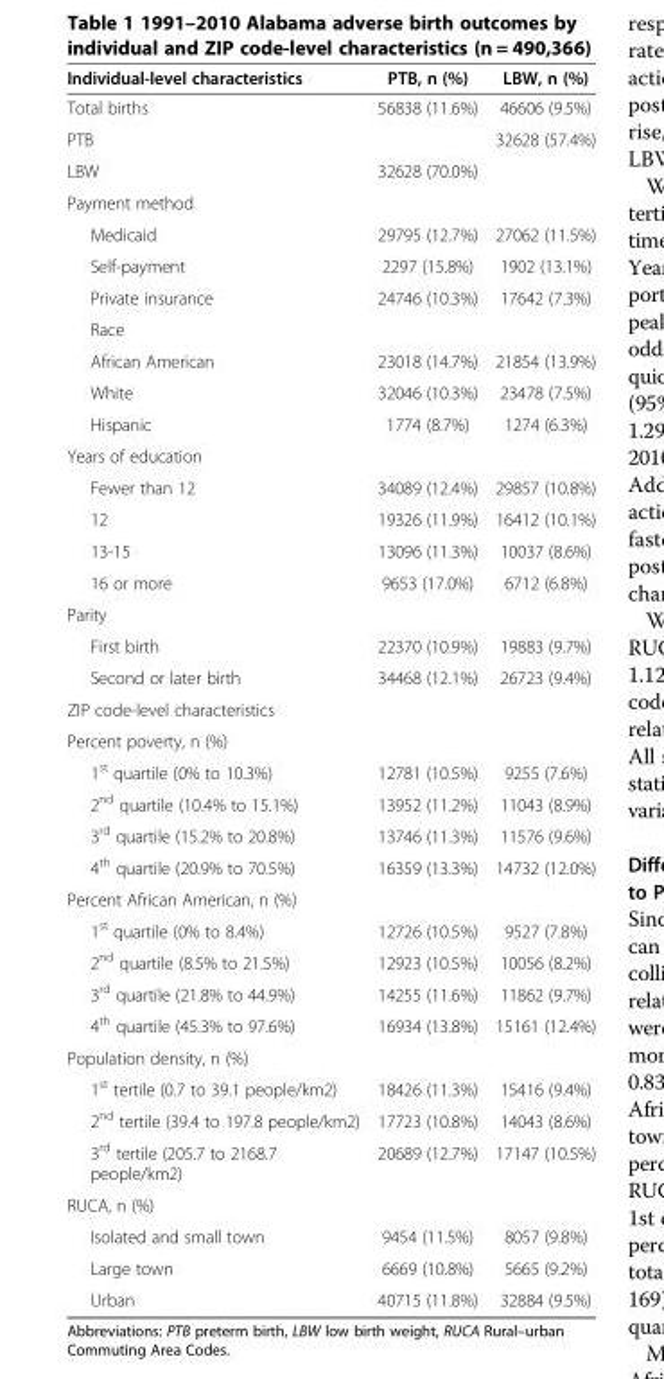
<table><thead><tr><td>Individual-level characteristics</td><td>PTB, n (%)</td><td>LBW, n (%)</td></tr></thead><tbody><tr><td>Total births</td><td>56838 (11.6%)</td><td>46606 (9.5%)</td></tr><tr><td>PTB</td><td></td><td>32628 (57.4%)</td></tr><tr><td>LBW</td><td>32628 (70.0%)</td><td></td></tr><tr><td colspan="3">Payment method</td></tr><tr><td>Medicaid</td><td>29795 (12.7%)</td><td>27062 (11.5%)</td></tr><tr><td>Self-payment</td><td>2297 (15.8%)</td><td>1902 (13.1%)</td></tr><tr><td>Private insurance</td><td>24746 (10.3%)</td><td>17642 (7.3%)</td></tr><tr><td colspan="3">Race</td></tr><tr><td>African American</td><td>23018 (14.7%)</td><td>21854 (13.9%)</td></tr><tr><td>White</td><td>32046 (10.3%)</td><td>23478 (7.5%)</td></tr><tr><td>Hispanic</td><td>1774 (8.7%)</td><td>1274 (6.3%)</td></tr><tr><td colspan="3">Years of education</td></tr><tr><td>Fewer than 12</td><td>34089 (12.4%)</td><td>29857 (10.8%)</td></tr><tr><td>12</td><td>19326 (11.9%)</td><td>16412 (10.1%)</td></tr><tr><td>13-15</td><td>13096 (11.3%)</td><td>10037 (8.6%)</td></tr><tr><td>16 or more</td><td>9653 (17.0%)</td><td>6712 (6.8%)</td></tr><tr><td colspan="3">Parity</td></tr><tr><td>First birth</td><td>22370 (10.9%)</td><td>19883 (9.7%)</td></tr><tr><td>Second or later birth</td><td>34468 (12.1%)</td><td>26723 (9.4%)</td></tr><tr><td colspan="3">ZIP code-level characteristics</td></tr><tr><td colspan="3">Percent poverty, n (%)</td></tr><tr><td>1<sup>st</sup> quartile (0% to 10.3%)</td><td>12781 (10.5%)</td><td>9255 (7.6%)</td></tr><tr><td>2<sup>nd</sup> quartile (10.4% to 15.1%)</td><td>13952 (11.2%)</td><td>11043 (8.9%)</td></tr><tr><td>3<sup>rd</sup> quartile (15.2% to 20.8%)</td><td>13746 (11.3%)</td><td>11576 (9.6%)</td></tr><tr><td>4<sup>th</sup> quartile (20.9% to 70.5%)</td><td>16359 (13.3%)</td><td>14732 (12.0%)</td></tr><tr><td colspan="3">Percent African American, n (%)</td></tr><tr><td>1<sup>st</sup> quartile (0% to 8.4%)</td><td>12726 (10.5%)</td><td>9527 (7.8%)</td></tr><tr><td>2<sup>nd</sup> quartile (8.5% to 21.5%)</td><td>12923 (10.5%)</td><td>10056 (8.2%)</td></tr><tr><td>3<sup>rd</sup> quartile (21.8% to 44.9%)</td><td>14255 (11.6%)</td><td>11862 (9.7%)</td></tr><tr><td>4<sup>th</sup> quartile (45.3% to 97.6%)</td><td>16934 (13.8%)</td><td>15161 (12.4%)</td></tr><tr><td colspan="3">Population density, n (%)</td></tr><tr><td>1<sup>st</sup> tertile (0.7 to 39.1 people/km2)</td><td>18426 (11.3%)</td><td>15416 (9.4%)</td></tr><tr><td>2<sup>nd</sup> tertile (39.4 to 197.8 people/km2)</td><td>17723 (10.8%)</td><td>14043 (8.6%)</td></tr><tr><td>3<sup>rd</sup> tertile (205.7 to 2168.7 people/km2)</td><td>20689 (12.7%)</td><td>17147 (10.5%)</td></tr><tr><td colspan="3">RUCA, n (%)</td></tr><tr><td>Isolated and small town</td><td>9454 (11.5%)</td><td>8057 (9.8%)</td></tr><tr><td>Large town</td><td>6669 (10.8%)</td><td>5665 (9.2%)</td></tr><tr><td>Urban</td><td>40715 (11.8%)</td><td>32884 (9.5%)</td></tr></tbody></table>